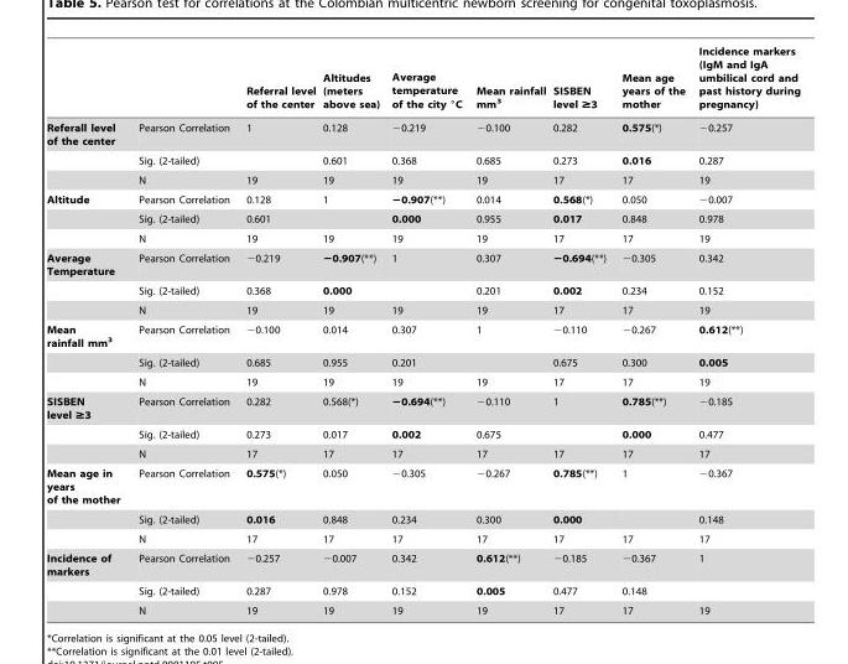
<table><thead><tr><td></td><td></td><td>Referral level of the center</td><td>Altitudes (meters above sea)</td><td>Average temperature of the city °C</td><td>Mean rainfall mm<sup>3</sup></td><td>SISBEN level ≥3</td><td>Mean age years of the mother</td><td>Incidence markers (IgM and IgA umbilical cord and past history during pregnancy)</td></tr></thead><tbody><tr><td rowspan="3">Referall level of the center</td><td>Pearson Correlation</td><td>1</td><td>0.128</td><td>−0.219</td><td>−0.100</td><td>0.282</td><td>0.575(*)</td><td>−0.257</td></tr><tr><td>Sig. (2-tailed)</td><td></td><td>0.601</td><td>0.368</td><td>0.685</td><td>0.273</td><td>0.016</td><td>0.287</td></tr><tr><td>N</td><td>19</td><td>19</td><td>19</td><td>19</td><td>17</td><td>17</td><td>19</td></tr><tr><td rowspan="3">Altitude</td><td>Pearson Correlation</td><td>0.128</td><td>1</td><td>−0.907(**)</td><td>0.014</td><td>0.568(*)</td><td>0.050</td><td>−0.007</td></tr><tr><td>Sig. (2-tailed)</td><td>0.601</td><td></td><td>0.000</td><td>0.955</td><td>0.017</td><td>0.848</td><td>0.978</td></tr><tr><td>N</td><td>19</td><td>19</td><td>19</td><td>19</td><td>17</td><td>17</td><td>19</td></tr><tr><td rowspan="3">Average Temperature</td><td>Pearson Correlation</td><td>−0.219</td><td>−0.907(**)</td><td>1</td><td>0.307</td><td>−0.694(**)</td><td>−0.305</td><td>0.342</td></tr><tr><td>Sig. (2-tailed)</td><td>0.368</td><td>0.000</td><td></td><td>0.201</td><td>0.002</td><td>0.234</td><td>0.152</td></tr><tr><td>N</td><td>19</td><td>19</td><td>19</td><td>19</td><td>17</td><td>17</td><td>19</td></tr><tr><td rowspan="3">Mean rainfall mm<sup>3</sup></td><td>Pearson Correlation</td><td>−0.100</td><td>0.014</td><td>0.307</td><td>1</td><td>−0.110</td><td>−0.267</td><td>0.612(**)</td></tr><tr><td>Sig. (2-tailed)</td><td>0.685</td><td>0.955</td><td>0.201</td><td></td><td>0.675</td><td>0.300</td><td>0.005</td></tr><tr><td>N</td><td>19</td><td>19</td><td>19</td><td>19</td><td>17</td><td>17</td><td>19</td></tr><tr><td rowspan="3">SISBEN level ≥3</td><td>Pearson Correlation</td><td>0.282</td><td>0.568(*)</td><td>−0.694(**)</td><td>−0.110</td><td>1</td><td>0.785(**)</td><td>−0.185</td></tr><tr><td>Sig. (2-tailed)</td><td>0.273</td><td>0.017</td><td>0.002</td><td>0.675</td><td></td><td>0.000</td><td>0.477</td></tr><tr><td>N</td><td>17</td><td>17</td><td>17</td><td>17</td><td>17</td><td>17</td><td>17</td></tr><tr><td rowspan="3">Mean age in years of the mother</td><td>Pearson Correlation</td><td>0.575(*)</td><td>0.050</td><td>−0.305</td><td>−0.267</td><td>0.785(**)</td><td>1</td><td>−0.367</td></tr><tr><td>Sig. (2-tailed)</td><td>0.016</td><td>0.848</td><td>0.234</td><td>0.300</td><td>0.000</td><td></td><td>0.148</td></tr><tr><td>N</td><td>17</td><td>17</td><td>17</td><td>17</td><td>17</td><td>17</td><td>17</td></tr><tr><td rowspan="3">Incidence of markers</td><td>Pearson Correlation</td><td>−0.257</td><td>−0.007</td><td>0.342</td><td>0.612(**)</td><td>−0.185</td><td>−0.367</td><td>1</td></tr><tr><td>Sig. (2-tailed)</td><td>0.287</td><td>0.978</td><td>0.152</td><td>0.005</td><td>0.477</td><td>0.148</td><td></td></tr><tr><td>N</td><td>19</td><td>19</td><td>19</td><td>19</td><td>17</td><td>17</td><td>19</td></tr></tbody></table>